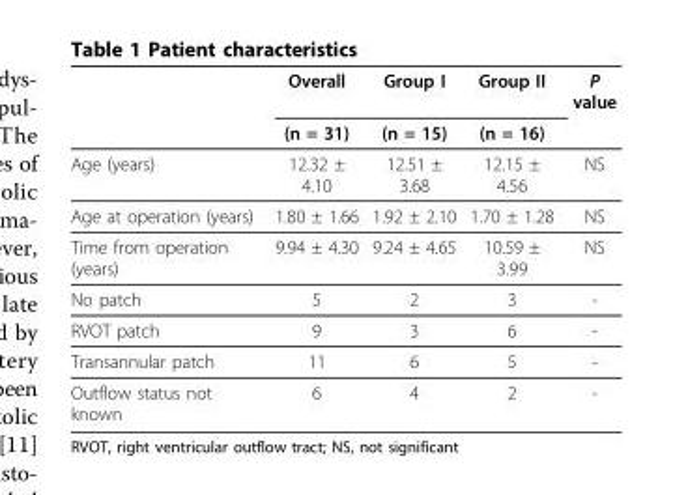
<table><thead><tr><td rowspan="2"></td><td rowspan="2">Overall (n = 31)</td><td rowspan="2">Group I (n = 15)</td><td rowspan="2">Group II (n = 16)</td><td rowspan="2">P value</td></tr><tr></tr></thead><tbody><tr><td>Age (years)</td><td>12.32 ± 4.10</td><td>12.51 ± 3.68</td><td>12.15 ± 4.56</td><td>NS</td></tr><tr><td>Age at operation (years)</td><td>1.80 ± 1.66</td><td>1.92 ± 2.10</td><td>1.70 ± 1.28</td><td>NS</td></tr><tr><td>Time from operation (years)</td><td>9.94 ± 4.30</td><td>9.24 ± 4.65</td><td>10.59 ± 3.99</td><td>NS</td></tr><tr><td>No patch</td><td>5</td><td>2</td><td>3</td><td>-</td></tr><tr><td>RVOT patch</td><td>9</td><td>3</td><td>6</td><td>-</td></tr><tr><td>Transannular patch</td><td>11</td><td>6</td><td>5</td><td>-</td></tr><tr><td>Outflow status not known</td><td>6</td><td>4</td><td>2</td><td>-</td></tr></tbody></table>